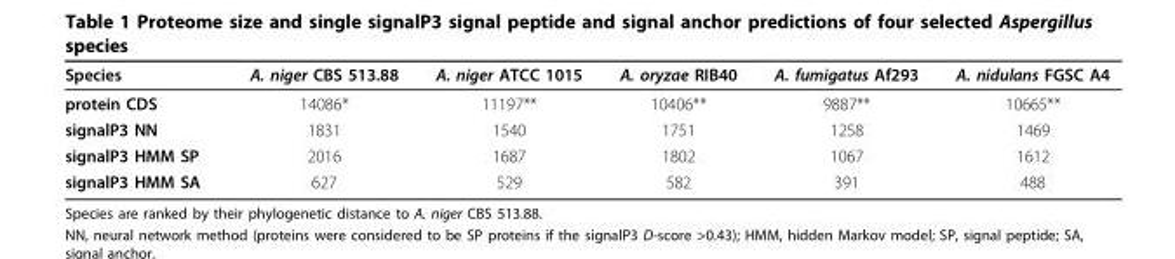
<table><thead><tr><td>Species</td><td>A. niger CBS 513.88</td><td>A. niger ATCC 1015</td><td>A. oryzae RIB40</td><td>A. fumigatus Af293</td><td>A. nidulans FGSC A4</td></tr></thead><tbody><tr><td>protein CDS</td><td>14086*</td><td>11197**</td><td>10406**</td><td>9887**</td><td>10665**</td></tr><tr><td>signalP3 NN</td><td>1831</td><td>1540</td><td>1751</td><td>1258</td><td>1469</td></tr><tr><td>signalP3 HMM SP</td><td>2016</td><td>1687</td><td>1802</td><td>1067</td><td>1612</td></tr><tr><td>signalP3 HMM SA</td><td>627</td><td>529</td><td>582</td><td>391</td><td>488</td></tr></tbody></table>